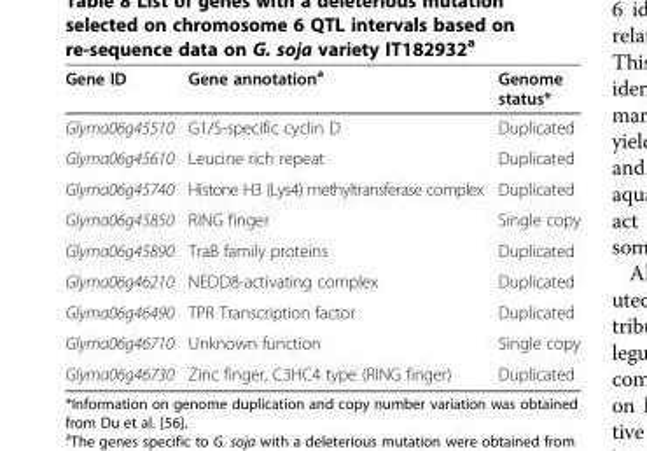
<table><thead><tr><td>Gene ID</td><td>Gene annotation<sup>a</sup></td><td>Genome status*</td></tr></thead><tbody><tr><td>Glyma06g45510</td><td>G1/S-specific cyclin D</td><td>Duplicated</td></tr><tr><td>Glyma06g45610</td><td>Leucine rich repeat</td><td>Duplicated</td></tr><tr><td>Glyma06g45740</td><td>Histone H3 (Lys4) methyltransferase complex</td><td>Duplicated</td></tr><tr><td>Glyma06g45850</td><td>RING finger</td><td>Single copy</td></tr><tr><td>Glyma06g45890</td><td>TraB family proteins</td><td>Duplicated</td></tr><tr><td>Glyma06g46210</td><td>NEDD8-activating complex</td><td>Duplicated</td></tr><tr><td>Glyma06g46490</td><td>TPR Transcription factor</td><td>Duplicated</td></tr><tr><td>Glyma06g46710</td><td>Unknown function</td><td>Single copy</td></tr><tr><td>Glyma06g46730</td><td>Zinc finger, C3HC4 type (RING finger)</td><td>Duplicated</td></tr></tbody></table>